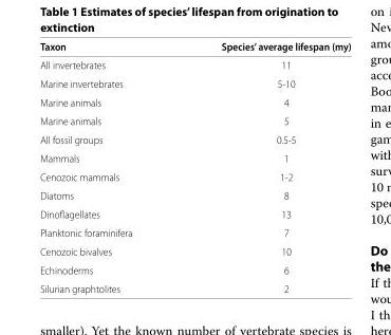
<table><thead><tr><td>Taxon</td><td>Species’ average lifespan (my)</td></tr></thead><tbody><tr><td>All invertebrates</td><td>11</td></tr><tr><td>Marine invertebrates</td><td>5-10</td></tr><tr><td>Marine animals</td><td>4</td></tr><tr><td>Marine animals</td><td>5</td></tr><tr><td>All fossil groups</td><td>0.5-5</td></tr><tr><td>Mammals</td><td>1</td></tr><tr><td>Cenozoic mammals</td><td>1-2</td></tr><tr><td>Diatoms</td><td>8</td></tr><tr><td>Dinoflagellates</td><td>13</td></tr><tr><td>Planktonic foraminifera</td><td>7</td></tr><tr><td>Cenozoic bivalves</td><td>10</td></tr><tr><td>Echinoderms</td><td>6</td></tr><tr><td>Silurian graphtolites</td><td>2</td></tr></tbody></table>